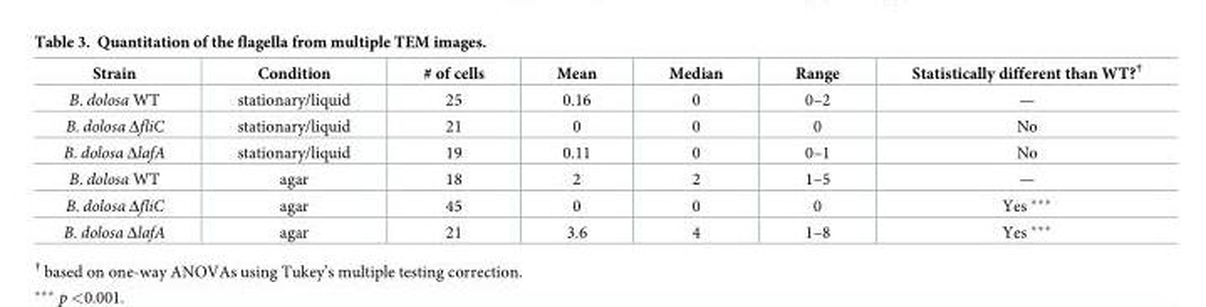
<table><thead><tr><td>Strain</td><td>Condition</td><td># of cells</td><td>Mean</td><td>Median</td><td>Range</td><td>Statistically different than WT?<sup>†</sup></td></tr></thead><tbody><tr><td>B. dolosa WT</td><td>stationary/liquid</td><td>25</td><td>0.16</td><td>0</td><td>0–2</td><td>—</td></tr><tr><td>B. dolosa ΔfliC</td><td>stationary/liquid</td><td>21</td><td>0</td><td>0</td><td>0</td><td>No</td></tr><tr><td>B. dolosa ΔlafA</td><td>stationary/liquid</td><td>19</td><td>0.11</td><td>0</td><td>0–1</td><td>No</td></tr><tr><td>B. dolosa WT</td><td>agar</td><td>18</td><td>2</td><td>2</td><td>1–5</td><td>—</td></tr><tr><td>B. dolosa ΔfliC</td><td>agar</td><td>45</td><td>0</td><td>0</td><td>0</td><td>Yes ***</td></tr><tr><td>B. dolosa ΔlafA</td><td>agar</td><td>21</td><td>3.6</td><td>4</td><td>1–8</td><td>Yes ***</td></tr></tbody></table>